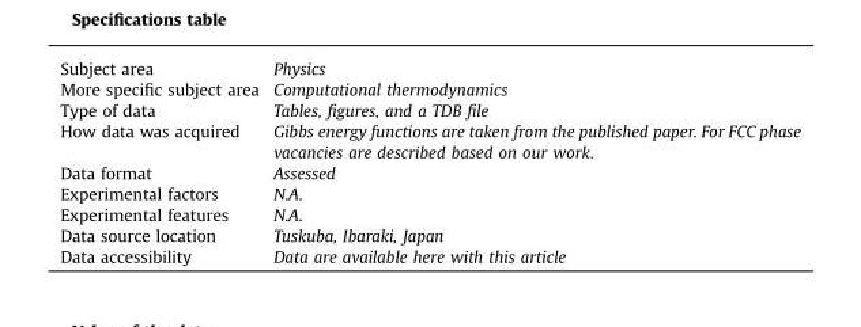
<table><tbody><tr><td>Subject area</td><td>Physics</td></tr><tr><td>More specific subject area</td><td>Computational thermodynamics</td></tr><tr><td>Type of data</td><td>Tables, figures, and a TDB file</td></tr><tr><td>How data was acquired</td><td>Gibbs energy functions are taken from the published paper. For FCC phase vacancies are described based on our work.</td></tr><tr><td>Data format</td><td>Assessed</td></tr><tr><td>Experimental factors</td><td>N.A.</td></tr><tr><td>Experimental features</td><td>N.A.</td></tr><tr><td>Data source location</td><td>Tuskuba, Ibaraki, Japan</td></tr><tr><td>Data accessibility</td><td>Data are available here with this article</td></tr></tbody></table>